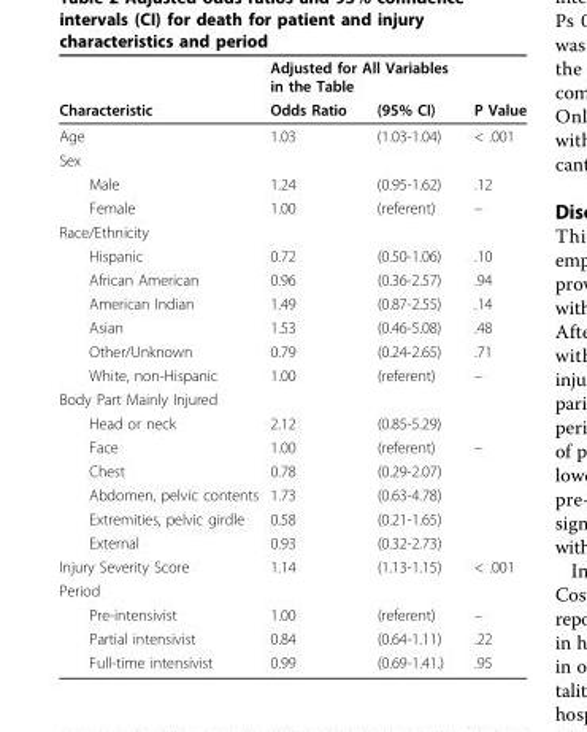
<table><thead><tr><td rowspan="2">Characteristic</td><td colspan="2">Adjusted for All Variables in the Table</td><td rowspan="2">P Value</td></tr><tr><td>Odds Ratio</td><td>(95% CI)</td></tr></thead><tbody><tr><td>Age</td><td>1.03</td><td>(1.03-1.04)</td><td>&lt; .001</td></tr><tr><td colspan="4">Sex</td></tr><tr><td>Male</td><td>1.24</td><td>(0.95-1.62)</td><td>.12</td></tr><tr><td>Female</td><td>1.00</td><td>(referent)</td><td>–</td></tr><tr><td colspan="4">Race/Ethnicity</td></tr><tr><td>Hispanic</td><td>0.72</td><td>(0.50-1.06)</td><td>.10</td></tr><tr><td>African American</td><td>0.96</td><td>(0.36-2.57)</td><td>.94</td></tr><tr><td>American Indian</td><td>1.49</td><td>(0.87-2.55)</td><td>.14</td></tr><tr><td>Asian</td><td>1.53</td><td>(0.46-5.08)</td><td>.48</td></tr><tr><td>Other/Unknown</td><td>0.79</td><td>(0.24-2.65)</td><td>.71</td></tr><tr><td>White, non-Hispanic</td><td>1.00</td><td>(referent)</td><td>–</td></tr><tr><td colspan="4">Body Part Mainly Injured</td></tr><tr><td>Head or neck</td><td>2.12</td><td>(0.85-5.29)</td><td></td></tr><tr><td>Face</td><td>1.00</td><td>(referent)</td><td>–</td></tr><tr><td>Chest</td><td>0.78</td><td>(0.29-2.07)</td><td></td></tr><tr><td>Abdomen, pelvic contents</td><td>1.73</td><td>(0.63-4.78)</td><td></td></tr><tr><td>Extremities, pelvic girdle</td><td>0.58</td><td>(0.21-1.65)</td><td></td></tr><tr><td>External</td><td>0.93</td><td>(0.32-2.73)</td><td></td></tr><tr><td>Injury Severity Score</td><td>1.14</td><td>(1.13-1.15)</td><td>&lt; .001</td></tr><tr><td colspan="4">Period</td></tr><tr><td>Pre-intensivist</td><td>1.00</td><td>(referent)</td><td>–</td></tr><tr><td>Partial intensivist</td><td>0.84</td><td>(0.64-1.11)</td><td>.22</td></tr><tr><td>Full-time intensivist</td><td>0.99</td><td>(0.69-1.41.)</td><td>.95</td></tr></tbody></table>